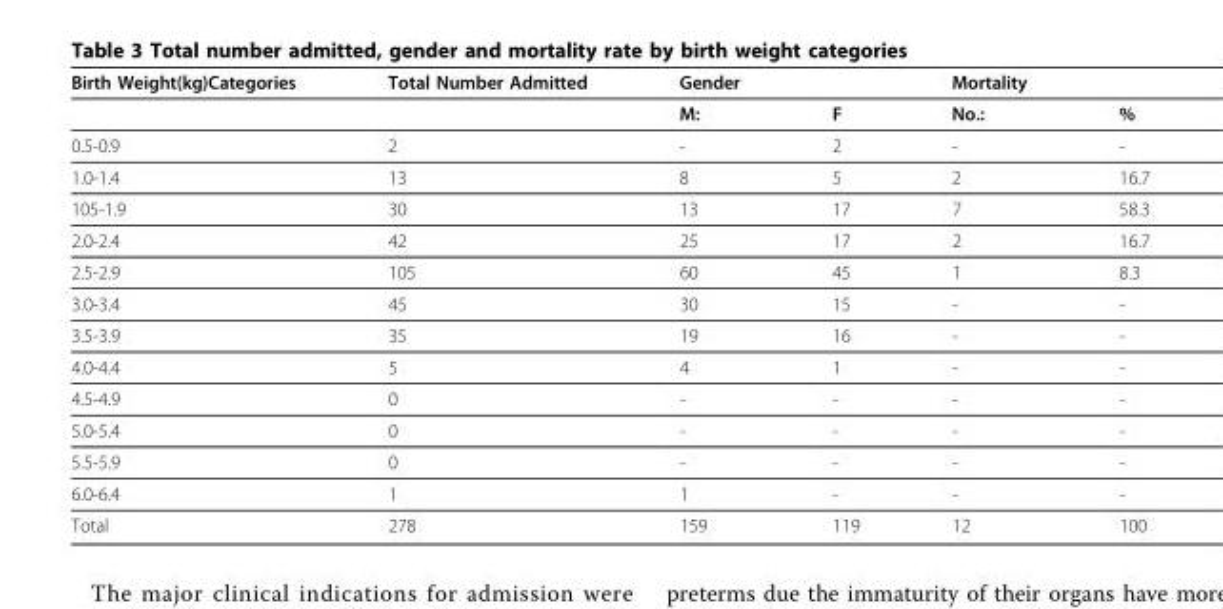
<table><thead><tr><td>Birth Weight(kg)Categories</td><td>Total Number Admitted</td><td>Gender</td><td></td><td>Mortality</td><td></td></tr></thead><tbody><tr><td></td><td></td><td>M:</td><td>F</td><td>No.:</td><td>%</td></tr><tr><td>0.5-0.9</td><td>2</td><td>-</td><td>2</td><td>-</td><td>-</td></tr><tr><td>1.0-1.4</td><td>13</td><td>8</td><td>5</td><td>2</td><td>16.7</td></tr><tr><td>105-1.9</td><td>30</td><td>13</td><td>17</td><td>7</td><td>58.3</td></tr><tr><td>2.0-2.4</td><td>42</td><td>25</td><td>17</td><td>2</td><td>16.7</td></tr><tr><td>2.5-2.9</td><td>105</td><td>60</td><td>45</td><td>1</td><td>8.3</td></tr><tr><td>3.0-3.4</td><td>45</td><td>30</td><td>15</td><td>-</td><td>-</td></tr><tr><td>3.5-3.9</td><td>35</td><td>19</td><td>16</td><td>-</td><td>-</td></tr><tr><td>4.0-4.4</td><td>5</td><td>4</td><td>1</td><td>-</td><td>-</td></tr><tr><td>4.5-4.9</td><td>0</td><td>-</td><td>-</td><td>-</td><td>-</td></tr><tr><td>5.0-5.4</td><td>0</td><td>-</td><td>-</td><td>-</td><td>-</td></tr><tr><td>5.5-5.9</td><td>0</td><td>-</td><td>-</td><td>-</td><td>-</td></tr><tr><td>6.0-6.4</td><td>1</td><td>1</td><td>-</td><td>-</td><td>-</td></tr><tr><td>Total</td><td>278</td><td>159</td><td>119</td><td>12</td><td>100</td></tr></tbody></table>